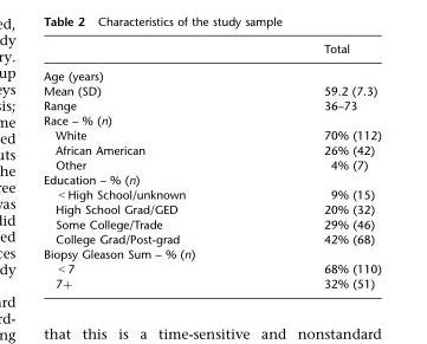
<table><thead><tr><td></td><td>Total</td></tr></thead><tbody><tr><td colspan="2">Age (years)</td></tr><tr><td>Mean (SD)</td><td>59.2 (7.3)</td></tr><tr><td>Range</td><td>36–73</td></tr><tr><td colspan="2">Race – % (n)</td></tr><tr><td>White</td><td>70% (112)</td></tr><tr><td>African American</td><td>26% (42)</td></tr><tr><td>Other</td><td>4% (7)</td></tr><tr><td colspan="2">Education – % (n)</td></tr><tr><td>&lt;High School/unknown</td><td>9% (15)</td></tr><tr><td>High School Grad/GED</td><td>20% (32)</td></tr><tr><td>Some College/Trade</td><td>29% (46)</td></tr><tr><td>College Grad/Post-grad</td><td>42% (68)</td></tr><tr><td colspan="2">Biopsy Gleason Sum – % (n)</td></tr><tr><td>&lt;7</td><td>68% (110)</td></tr><tr><td>7+</td><td>32% (51)</td></tr></tbody></table>